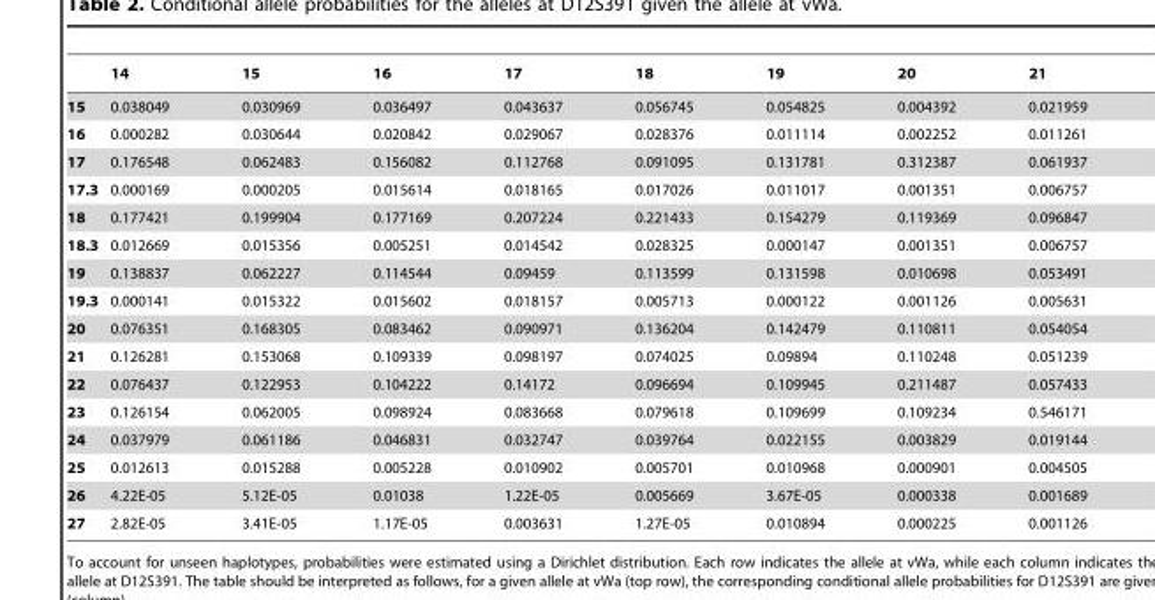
<table><thead><tr><td></td><td>14</td><td>15</td><td>16</td><td>17</td><td>18</td><td>19</td><td>20</td><td>21</td></tr></thead><tbody><tr><td>15</td><td>0.038049</td><td>0.030969</td><td>0.036497</td><td>0.043637</td><td>0.056745</td><td>0.054825</td><td>0.004392</td><td>0.021959</td></tr><tr><td>16</td><td>0.000282</td><td>0.030644</td><td>0.020842</td><td>0.029067</td><td>0.028376</td><td>0.011114</td><td>0.002252</td><td>0.011261</td></tr><tr><td>17</td><td>0.176548</td><td>0.062483</td><td>0.156082</td><td>0.112768</td><td>0.091095</td><td>0.131781</td><td>0.312387</td><td>0.061937</td></tr><tr><td>17.3</td><td>0.000169</td><td>0.000205</td><td>0.015614</td><td>0.018165</td><td>0.017026</td><td>0.011017</td><td>0.001351</td><td>0.006757</td></tr><tr><td>18</td><td>0.177421</td><td>0.199904</td><td>0.177169</td><td>0.207224</td><td>0.221433</td><td>0.154279</td><td>0.119369</td><td>0.096847</td></tr><tr><td>18.3</td><td>0.012669</td><td>0.015356</td><td>0.005251</td><td>0.014542</td><td>0.028325</td><td>0.000147</td><td>0.001351</td><td>0.006757</td></tr><tr><td>19</td><td>0.138837</td><td>0.062227</td><td>0.114544</td><td>0.09459</td><td>0.113599</td><td>0.131598</td><td>0.010698</td><td>0.053491</td></tr><tr><td>19.3</td><td>0.000141</td><td>0.015322</td><td>0.015602</td><td>0.018157</td><td>0.005713</td><td>0.000122</td><td>0.001126</td><td>0.005631</td></tr><tr><td>20</td><td>0.076351</td><td>0.168305</td><td>0.083462</td><td>0.090971</td><td>0.136204</td><td>0.142479</td><td>0.110811</td><td>0.054054</td></tr><tr><td>21</td><td>0.126281</td><td>0.153068</td><td>0.109339</td><td>0.098197</td><td>0.074025</td><td>0.09894</td><td>0.110248</td><td>0.051239</td></tr><tr><td>22</td><td>0.076437</td><td>0.122953</td><td>0.104222</td><td>0.14172</td><td>0.096694</td><td>0.109945</td><td>0.211487</td><td>0.057433</td></tr><tr><td>23</td><td>0.126154</td><td>0.062005</td><td>0.098924</td><td>0.083668</td><td>0.079618</td><td>0.109699</td><td>0.109234</td><td>0.546171</td></tr><tr><td>24</td><td>0.037979</td><td>0.061186</td><td>0.046831</td><td>0.032747</td><td>0.039764</td><td>0.022155</td><td>0.003829</td><td>0.019144</td></tr><tr><td>25</td><td>0.012613</td><td>0.015288</td><td>0.005228</td><td>0.010902</td><td>0.005701</td><td>0.010968</td><td>0.000901</td><td>0.004505</td></tr><tr><td>26</td><td>4.22E-05</td><td>5.12E-05</td><td>0.01038</td><td>1.22E-05</td><td>0.005669</td><td>3.67E-05</td><td>0.000338</td><td>0.001689</td></tr><tr><td>27</td><td>2.82E-05</td><td>3.41E-05</td><td>1.17E-05</td><td>0.003631</td><td>1.27E-05</td><td>0.010894</td><td>0.000225</td><td>0.001126</td></tr></tbody></table>